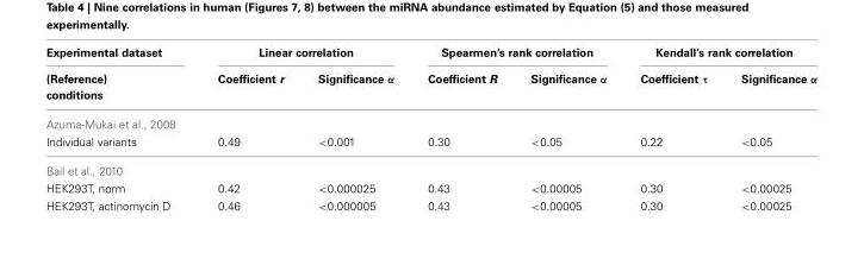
<table><thead><tr><td rowspan="2">Experimental dataset (Reference) conditions</td><td colspan="2">Linear correlation</td><td colspan="2">Spearmen’s rank correlation</td><td colspan="2">Kendall’s rank correlation</td></tr><tr><td>Coefficient r</td><td>Significance α</td><td>Coefficient R</td><td>Significance α</td><td>Coefficient τ</td><td>Significance α</td></tr></thead><tbody><tr><td colspan="7">Azuma-Mukai et al., 2008</td></tr><tr><td>Individual variants</td><td>0.49</td><td>&lt;0.001</td><td>0.30</td><td>&lt;0.05</td><td>0.22</td><td>&lt;0.05</td></tr><tr><td colspan="7">Bail et al., 2010</td></tr><tr><td>HEK293T, norm</td><td>0.42</td><td>&lt;0.000025</td><td>0.43</td><td>&lt;0.00005</td><td>0.30</td><td>&lt;0.00025</td></tr><tr><td>HEK293T, actinomycin D</td><td>0.46</td><td>&lt;0.000005</td><td>0.43</td><td>&lt;0.00005</td><td>0.30</td><td>&lt;0.00025</td></tr></tbody></table>